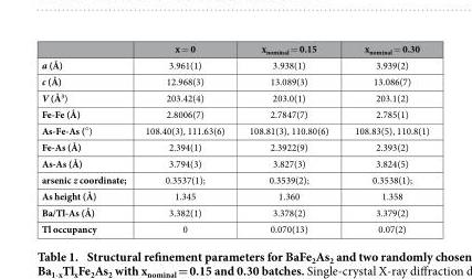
<table><thead><tr><td></td><td>x = 0</td><td>x<sub>nominal</sub> = 0.15</td><td>x<sub>nominal</sub> = 0.30</td></tr></thead><tbody><tr><td>a (Å)</td><td>3.961(1)</td><td>3.938(1)</td><td>3.939(2)</td></tr><tr><td>c (Å)</td><td>12.968(3)</td><td>13.089(3)</td><td>13.086(7)</td></tr><tr><td>V (Å<sup>3</sup>)</td><td>203.42(4)</td><td>203.0(1)</td><td>203.1(2)</td></tr><tr><td>Fe-Fe (Å)</td><td>2.8006(7)</td><td>2.7847(7)</td><td>2.785(1)</td></tr><tr><td>As-Fe-As (<sup>°</sup>)</td><td>108.40(3), 111.63(6)</td><td>108.81(3), 110.80(6)</td><td>108.83(5), 110.8(1)</td></tr><tr><td>Fe-As (Å)</td><td>2.394(1)</td><td>2.3922(9)</td><td>2.393(2)</td></tr><tr><td>As-As (Å)</td><td>3.794(3)</td><td>3.827(3)</td><td>3.824(5)</td></tr><tr><td>arsenic z coordinate;</td><td>0.3537(1);</td><td>0.3539(2);</td><td>0.3538(1);</td></tr><tr><td>As height (Å)</td><td>1.345</td><td>1.360</td><td>1.358</td></tr><tr><td>Ba/Tl-As (Å)</td><td>3.382(1)</td><td>3.378(2)</td><td>3.379(2)</td></tr><tr><td>Tl occupancy</td><td>0</td><td>0.070(13)</td><td>0.07(2)</td></tr></tbody></table>